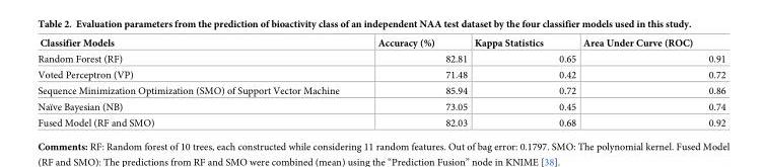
<table><thead><tr><td>Classifier Models</td><td>Accuracy (%)</td><td>Kappa Statistics</td><td>Area Under Curve (ROC)</td></tr></thead><tbody><tr><td>Random Forest (RF)</td><td>82.81</td><td>0.65</td><td>0.91</td></tr><tr><td>Voted Perceptron (VP)</td><td>71.48</td><td>0.42</td><td>0.72</td></tr><tr><td>Sequence Minimization Optimization (SMO) of Support Vector Machine</td><td>85.94</td><td>0.72</td><td>0.86</td></tr><tr><td>Naïve Bayesian (NB)</td><td>73.05</td><td>0.45</td><td>0.74</td></tr><tr><td>Fused Model (RF and SMO)</td><td>82.03</td><td>0.68</td><td>0.92</td></tr></tbody></table>